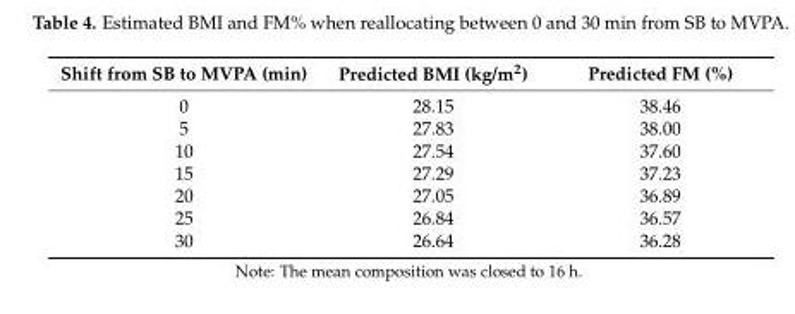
<table><thead><tr><td>Shift from SB to MVPA (min)</td><td>Predicted BMI (kg/m<sup>2</sup>)</td><td>Predicted FM (%)</td></tr></thead><tbody><tr><td>0</td><td>28.15</td><td>38.46</td></tr><tr><td>5</td><td>27.83</td><td>38.00</td></tr><tr><td>10</td><td>27.54</td><td>37.60</td></tr><tr><td>15</td><td>27.29</td><td>37.23</td></tr><tr><td>20</td><td>27.05</td><td>36.89</td></tr><tr><td>25</td><td>26.84</td><td>36.57</td></tr><tr><td>30</td><td>26.64</td><td>36.28</td></tr></tbody></table>